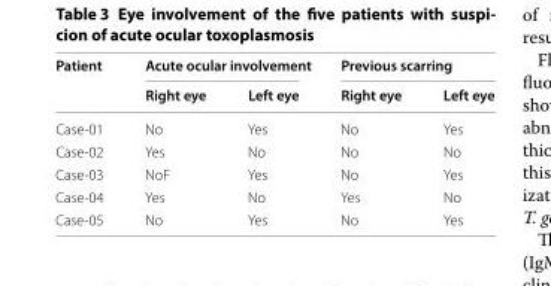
<table><thead><tr><td rowspan="2">Patient</td><td colspan="2">Acute ocular involvement</td><td colspan="2">Previous scarring</td></tr><tr><td>Right eye</td><td>Left eye</td><td>Right eye</td><td>Left eye</td></tr></thead><tbody><tr><td>Case‑01</td><td>No</td><td>Yes</td><td>No</td><td>Yes</td></tr><tr><td>Case‑02</td><td>Yes</td><td>No</td><td>No</td><td>No</td></tr><tr><td>Case‑03</td><td>NoF</td><td>Yes</td><td>No</td><td>Yes</td></tr><tr><td>Case‑04</td><td>Yes</td><td>No</td><td>Yes</td><td>No</td></tr><tr><td>Case‑05</td><td>No</td><td>Yes</td><td>No</td><td>Yes</td></tr></tbody></table>